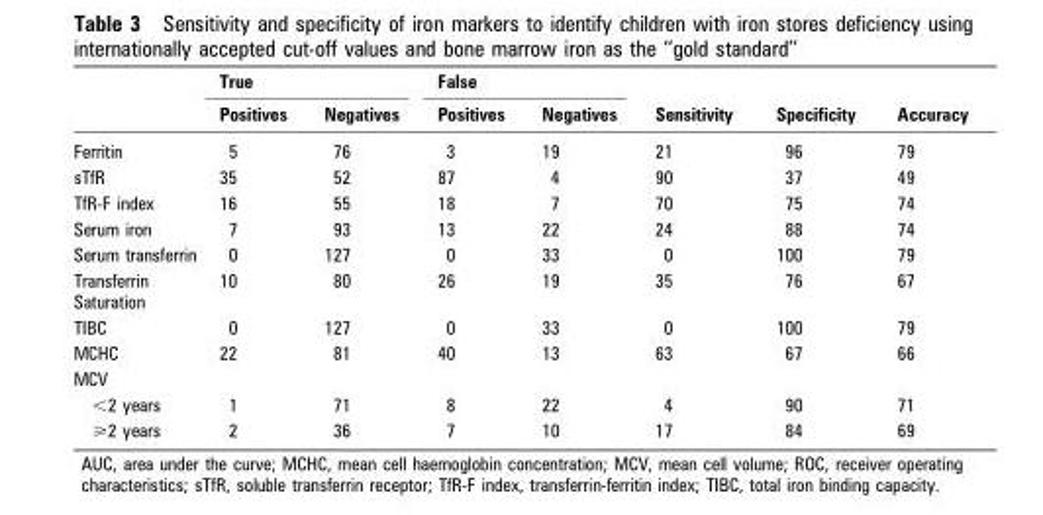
<table><thead><tr><td rowspan="2"></td><td colspan="2">True</td><td colspan="2">False</td><td rowspan="2">Sensitivity</td><td rowspan="2">Specificity</td><td rowspan="2">Accuracy</td></tr><tr><td>Positives</td><td>Negatives</td><td>Positives</td><td>Negatives</td></tr></thead><tbody><tr><td>Ferritin</td><td>5</td><td>76</td><td>3</td><td>19</td><td>21</td><td>96</td><td>79</td></tr><tr><td>sTfR</td><td>35</td><td>52</td><td>87</td><td>4</td><td>90</td><td>37</td><td>49</td></tr><tr><td>TfR-F index</td><td>16</td><td>55</td><td>18</td><td>7</td><td>70</td><td>75</td><td>74</td></tr><tr><td>Serum iron</td><td>7</td><td>93</td><td>13</td><td>22</td><td>24</td><td>88</td><td>74</td></tr><tr><td>Serum transferrin</td><td>0</td><td>127</td><td>0</td><td>33</td><td>0</td><td>100</td><td>79</td></tr><tr><td>Transferrin Saturation</td><td>10</td><td>80</td><td>26</td><td>19</td><td>35</td><td>76</td><td>67</td></tr><tr><td>TIBC</td><td>0</td><td>127</td><td>0</td><td>33</td><td>0</td><td>100</td><td>79</td></tr><tr><td>MCHC</td><td>22</td><td>81</td><td>40</td><td>13</td><td>63</td><td>67</td><td>66</td></tr><tr><td colspan="8">MCV</td></tr><tr><td>&lt;2 years</td><td>1</td><td>71</td><td>8</td><td>22</td><td>4</td><td>90</td><td>71</td></tr><tr><td>&gt;2 years</td><td>2</td><td>36</td><td>7</td><td>10</td><td>17</td><td>84</td><td>69</td></tr></tbody></table>